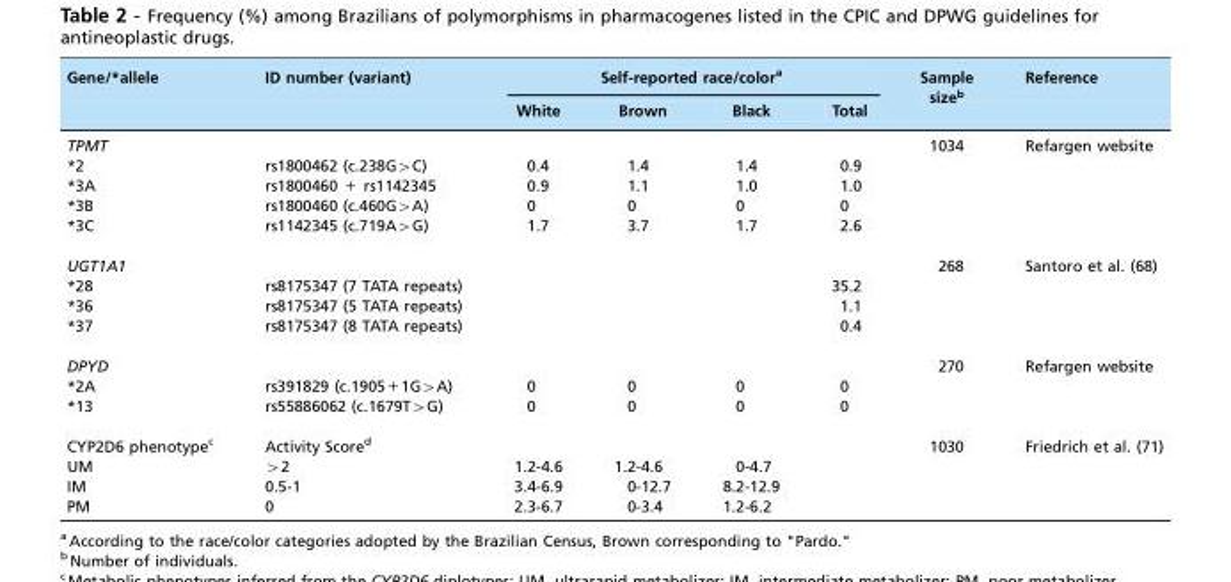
<table><thead><tr><td rowspan="2">Gene/*allele</td><td rowspan="2">ID number (variant)</td><td colspan="4">Self-reported race/color<sup>a</sup></td><td rowspan="2">Sample size<sup>b</sup></td><td rowspan="2">Reference</td></tr><tr><td>White</td><td>Brown</td><td>Black</td><td>Total</td></tr></thead><tbody><tr><td colspan="6">TPMT</td><td rowspan="5">1034</td><td rowspan="5">Refargen website</td></tr><tr><td>*2</td><td>rs1800462 (c.238G&gt;C)</td><td>0.4</td><td>1.4</td><td>1.4</td><td>0.9</td></tr><tr><td>*3A</td><td>rs1800460 + rs1142345</td><td>0.9</td><td>1.1</td><td>1.0</td><td>1.0</td></tr><tr><td>*3B</td><td>rs1800460 (c.460G&gt;A)</td><td>0</td><td>0</td><td>0</td><td>0</td></tr><tr><td>*3C</td><td>rs1142345 (c.719A&gt;G)</td><td>1.7</td><td>3.7</td><td>1.7</td><td>2.6</td></tr><tr><td colspan="6">UGT1A1</td><td rowspan="4">268</td><td rowspan="4">Santoro et al. (68)</td></tr><tr><td>*28</td><td>rs8175347 (7 TATA repeats)</td><td></td><td></td><td></td><td>35.2</td></tr><tr><td>*36</td><td>rs8175347 (5 TATA repeats)</td><td></td><td></td><td></td><td>1.1</td></tr><tr><td>*37</td><td>rs8175347 (8 TATA repeats)</td><td></td><td></td><td></td><td>0.4</td></tr><tr><td colspan="6">DPYD</td><td rowspan="3">270</td><td rowspan="3">Refargen website</td></tr><tr><td>*2A</td><td>rs391829 (c.1905+1G&gt;A)</td><td>0</td><td>0</td><td>0</td><td>0</td></tr><tr><td>*13</td><td>rs55886062 (c.1679T&gt;G)</td><td>0</td><td>0</td><td>0</td><td>0</td></tr><tr><td>CYP2D6 phenotype<sup>c</sup></td><td>Activity Score<sup>d</sup></td><td></td><td></td><td></td><td></td><td rowspan="4">1030</td><td rowspan="4">Friedrich et al. (71)</td></tr><tr><td>UM</td><td>&gt;2</td><td>1.2-4.6</td><td>1.2-4.6</td><td>0-4.7</td><td></td></tr><tr><td>IM</td><td>0.5-1</td><td>3.4-6.9</td><td>0-12.7</td><td>8.2-12.9</td><td></td></tr><tr><td>PM</td><td>0</td><td>2.3-6.7</td><td>0-3.4</td><td>1.2-6.2</td><td></td></tr></tbody></table>